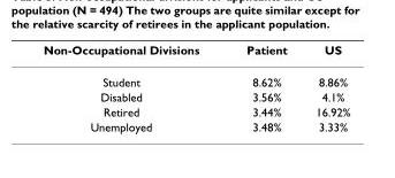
<table><thead><tr><td>Non-Occupational Divisions</td><td>Patient</td><td>US</td></tr></thead><tbody><tr><td>Student</td><td>8.62%</td><td>8.86%</td></tr><tr><td>Disabled</td><td>3.56%</td><td>4.1%</td></tr><tr><td>Retired</td><td>3.44%</td><td>16.92%</td></tr><tr><td>Unemployed</td><td>3.48%</td><td>3.33%</td></tr></tbody></table>